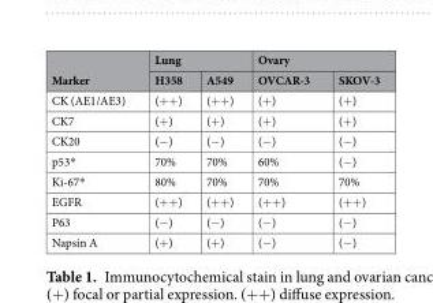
<table><thead><tr><td rowspan="2">Marker</td><td colspan="2">Lung</td><td colspan="2">Ovary</td></tr><tr><td>H358</td><td>A549</td><td>OVCAR-3</td><td>SKOV-3</td></tr></thead><tbody><tr><td>CK (AE1/AE3)</td><td>(++)</td><td>(++)</td><td>(+)</td><td>(+)</td></tr><tr><td>CK7</td><td>(+)</td><td>(+)</td><td>(+)</td><td>(+)</td></tr><tr><td>CK20</td><td>(−)</td><td>(−)</td><td>(−)</td><td>(−)</td></tr><tr><td>p53*</td><td>70%</td><td>70%</td><td>60%</td><td>(−)</td></tr><tr><td>Ki-67*</td><td>80%</td><td>70%</td><td>70%</td><td>70%</td></tr><tr><td>EGFR</td><td>(++)</td><td>(++)</td><td>(++)</td><td>(++)</td></tr><tr><td>P63</td><td>(−)</td><td>(−)</td><td>(−)</td><td>(−)</td></tr><tr><td>Napsin A</td><td>(+)</td><td>(+)</td><td>(−)</td><td>(−)</td></tr></tbody></table>